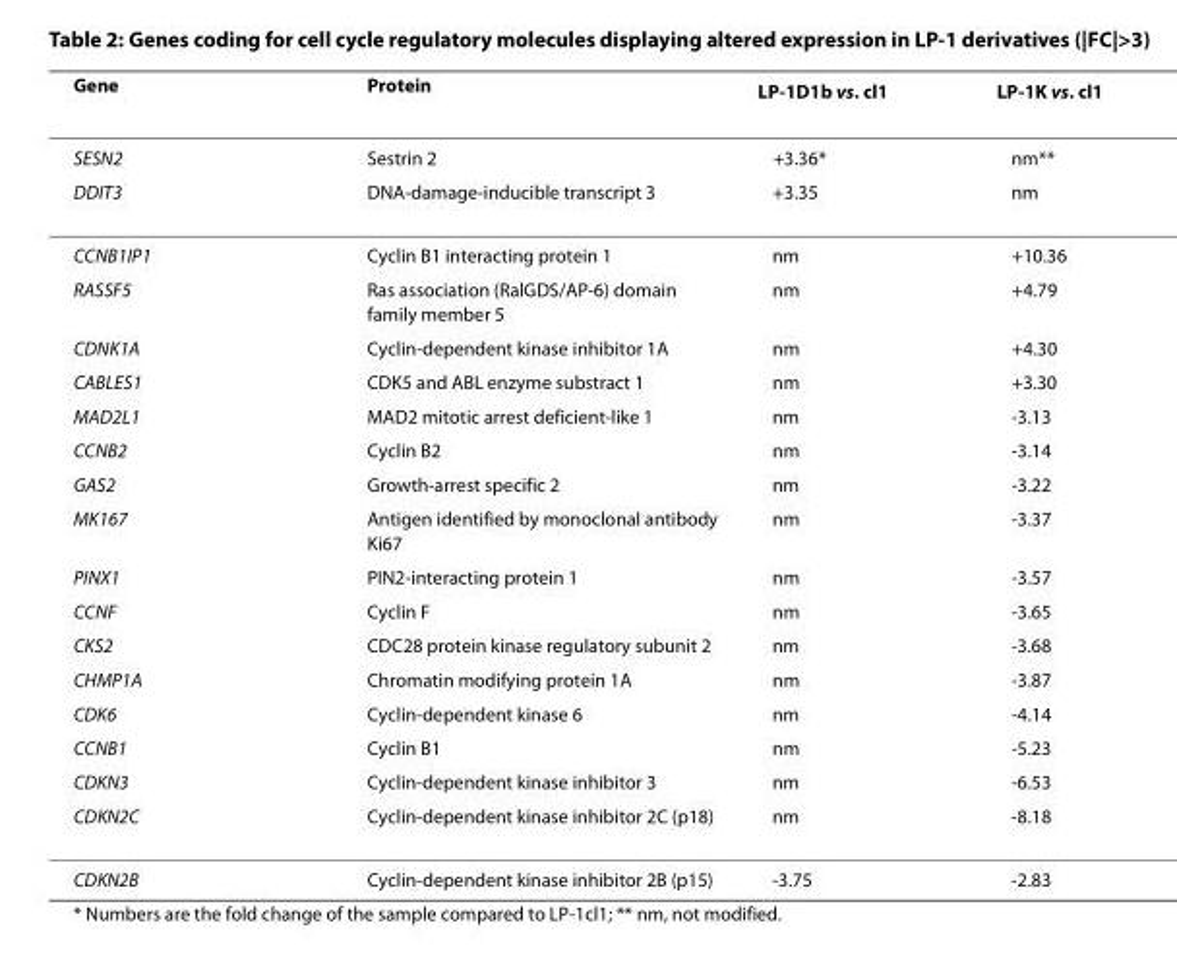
<table><thead><tr><td>Gene</td><td>Protein</td><td>LP-1D1b vs. cl1</td><td>LP-1K vs. cl1</td></tr></thead><tbody><tr><td>SESN2</td><td>Sestrin 2</td><td>+3.36*</td><td>nm**</td></tr><tr><td>DDIT3</td><td>DNA-damage-inducible transcript 3</td><td>+3.35</td><td>nm</td></tr><tr><td>CCNB1IP1</td><td>Cyclin B1 interacting protein 1</td><td>nm</td><td>+10.36</td></tr><tr><td>RASSF5</td><td>Ras association (RalGDS/AP-6) domain family member 5</td><td>nm</td><td>+4.79</td></tr><tr><td>CDNK1A</td><td>Cyclin-dependent kinase inhibitor 1A</td><td>nm</td><td>+4.30</td></tr><tr><td>CABLES1</td><td>CDK5 and ABL enzyme substract 1</td><td>nm</td><td>+3.30</td></tr><tr><td>MAD2L1</td><td>MAD2 mitotic arrest deficient-like 1</td><td>nm</td><td>-3.13</td></tr><tr><td>CCNB2</td><td>Cyclin B2</td><td>nm</td><td>-3.14</td></tr><tr><td>GAS2</td><td>Growth-arrest specific 2</td><td>nm</td><td>-3.22</td></tr><tr><td>MK167</td><td>Antigen identified by monoclonal antibody Ki67</td><td>nm</td><td>-3.37</td></tr><tr><td>PINX1</td><td>PIN2-interacting protein 1</td><td>nm</td><td>-3.57</td></tr><tr><td>CCNF</td><td>Cyclin F</td><td>nm</td><td>-3.65</td></tr><tr><td>CKS2</td><td>CDC28 protein kinase regulatory subunit 2</td><td>nm</td><td>-3.68</td></tr><tr><td>CHMP1A</td><td>Chromatin modifying protein 1A</td><td>nm</td><td>-3.87</td></tr><tr><td>CDK6</td><td>Cyclin-dependent kinase 6</td><td>nm</td><td>-4.14</td></tr><tr><td>CCNB1</td><td>Cyclin B1</td><td>nm</td><td>-5.23</td></tr><tr><td>CDKN3</td><td>Cyclin-dependent kinase inhibitor 3</td><td>nm</td><td>-6.53</td></tr><tr><td>CDKN2C</td><td>Cyclin-dependent kinase inhibitor 2C (p18)</td><td>nm</td><td>-8.18</td></tr><tr><td>CDKN2B</td><td>Cyclin-dependent kinase inhibitor 2B (p15)</td><td>-3.75</td><td>-2.83</td></tr></tbody></table>